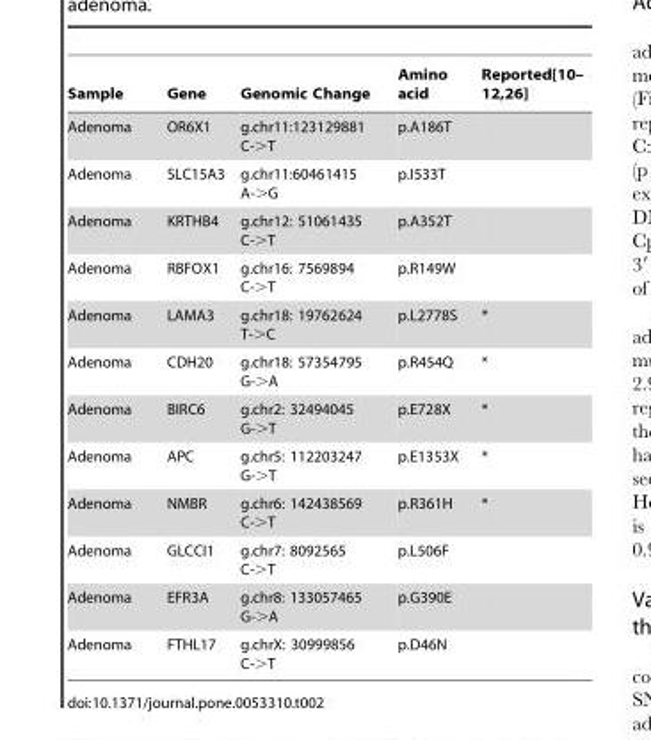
<table><thead><tr><td>Sample</td><td>Gene</td><td>Genomic Change</td><td>Amino acid</td><td>Reported[10– 12,26]</td></tr></thead><tbody><tr><td>Adenoma</td><td>OR6X1</td><td>g.chr11:123129881 C-&gt;T</td><td>p.A186T</td><td></td></tr><tr><td>Adenoma</td><td>SLC15A3</td><td>g.chr11:60461415 A-&gt;G</td><td>p.I533T</td><td></td></tr><tr><td>Adenoma</td><td>KRTHB4</td><td>g.chr12: 51061435 C-&gt;T</td><td>p.A352T</td><td></td></tr><tr><td>Adenoma</td><td>RBFOX1</td><td>g.chr16: 7569894 C-&gt;T</td><td>p.R149W</td><td></td></tr><tr><td>Adenoma</td><td>LAMA3</td><td>g.chr18: 19762624 T-&gt;C</td><td>p.L2778S</td><td>*</td></tr><tr><td>Adenoma</td><td>CDH20</td><td>g.chr18: 57354795 G-&gt;A</td><td>p.R454Q</td><td>*</td></tr><tr><td>Adenoma</td><td>BIRC6</td><td>g.chr2: 32494045 G-&gt;T</td><td>p.E728X</td><td>*</td></tr><tr><td>Adenoma</td><td>APC</td><td>g.chr5: 112203247 G-&gt;T</td><td>p.E1353X</td><td>*</td></tr><tr><td>Adenoma</td><td>NMBR</td><td>g.chr6: 142438569 C-&gt;T</td><td>p.R361H</td><td>*</td></tr><tr><td>Adenoma</td><td>GLCCI1</td><td>g.chr7: 8092565 C-&gt;T</td><td>p.L506F</td><td></td></tr><tr><td>Adenoma</td><td>EFR3A</td><td>g.chr8: 133057465 G-&gt;A</td><td>p.G390E</td><td></td></tr><tr><td>Adenoma</td><td>FTHL17</td><td>g.chrX: 30999856 C-&gt;T</td><td>p.D46N</td><td></td></tr></tbody></table>